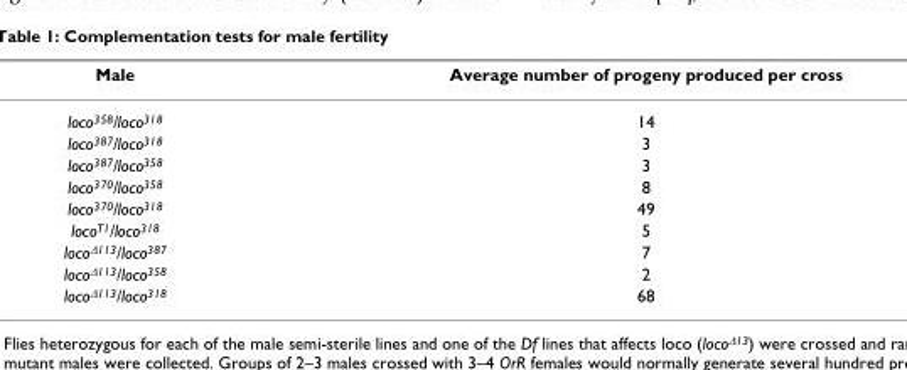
<table><thead><tr><td>Male</td><td>Average number of progeny produced per cross</td></tr></thead><tbody><tr><td>loco<sup>358</sup>/loco<sup>318</sup></td><td>14</td></tr><tr><td>loco<sup>387</sup>/loco<sup>318</sup></td><td>3</td></tr><tr><td>loco<sup>387</sup>/loco<sup>358</sup></td><td>3</td></tr><tr><td>loco<sup>370</sup>/loco<sup>358</sup></td><td>8</td></tr><tr><td>loco<sup>370</sup>/loco<sup>318</sup></td><td>49</td></tr><tr><td>loco<sup>T1</sup>/loco<sup>318</sup></td><td>5</td></tr><tr><td>loco<sup>Δ113</sup>/loco<sup>387</sup></td><td>7</td></tr><tr><td>loco<sup>Δ113</sup>/loco<sup>358</sup></td><td>2</td></tr><tr><td>loco<sup>Δ113</sup>/loco<sup>318</sup></td><td>68</td></tr></tbody></table>